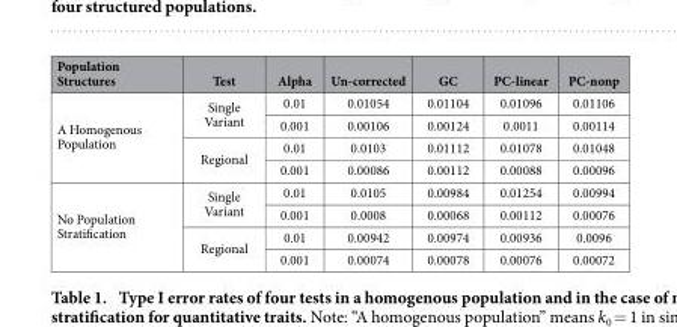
<table><thead><tr><td>Population Structures</td><td>Test</td><td>Alpha</td><td>Un-corrected</td><td>GC</td><td>PC-linear</td><td>PC-nonp</td></tr></thead><tbody><tr><td rowspan="4">A Homogenous Population</td><td rowspan="2">Single Variant</td><td>0.01</td><td>0.01054</td><td>0.01104</td><td>0.01096</td><td>0.01106</td></tr><tr><td>0.001</td><td>0.00106</td><td>0.00124</td><td>0.0011</td><td>0.00114</td></tr><tr><td rowspan="2">Regional</td><td>0.01</td><td>0.0103</td><td>0.01112</td><td>0.01078</td><td>0.01048</td></tr><tr><td>0.001</td><td>0.00086</td><td>0.00112</td><td>0.00088</td><td>0.00096</td></tr><tr><td rowspan="4">No Population Stratification</td><td rowspan="2">Single Variant</td><td>0.01</td><td>0.0105</td><td>0.00984</td><td>0.01254</td><td>0.00994</td></tr><tr><td>0.001</td><td>0.0008</td><td>0.00068</td><td>0.00112</td><td>0.00076</td></tr><tr><td rowspan="2">Regional</td><td>0.01</td><td>0.00942</td><td>0.00974</td><td>0.00936</td><td>0.0096</td></tr><tr><td>0.001</td><td>0.00074</td><td>0.00078</td><td>0.00076</td><td>0.00072</td></tr></tbody></table>